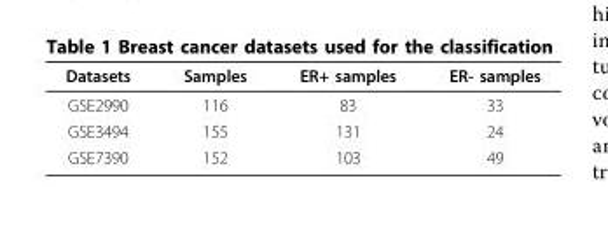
<table><thead><tr><td>Datasets</td><td>Samples</td><td>ER+ samples</td><td>ER- samples</td></tr></thead><tbody><tr><td>GSE2990</td><td>116</td><td>83</td><td>33</td></tr><tr><td>GSE3494</td><td>155</td><td>131</td><td>24</td></tr><tr><td>GSE7390</td><td>152</td><td>103</td><td>49</td></tr></tbody></table>